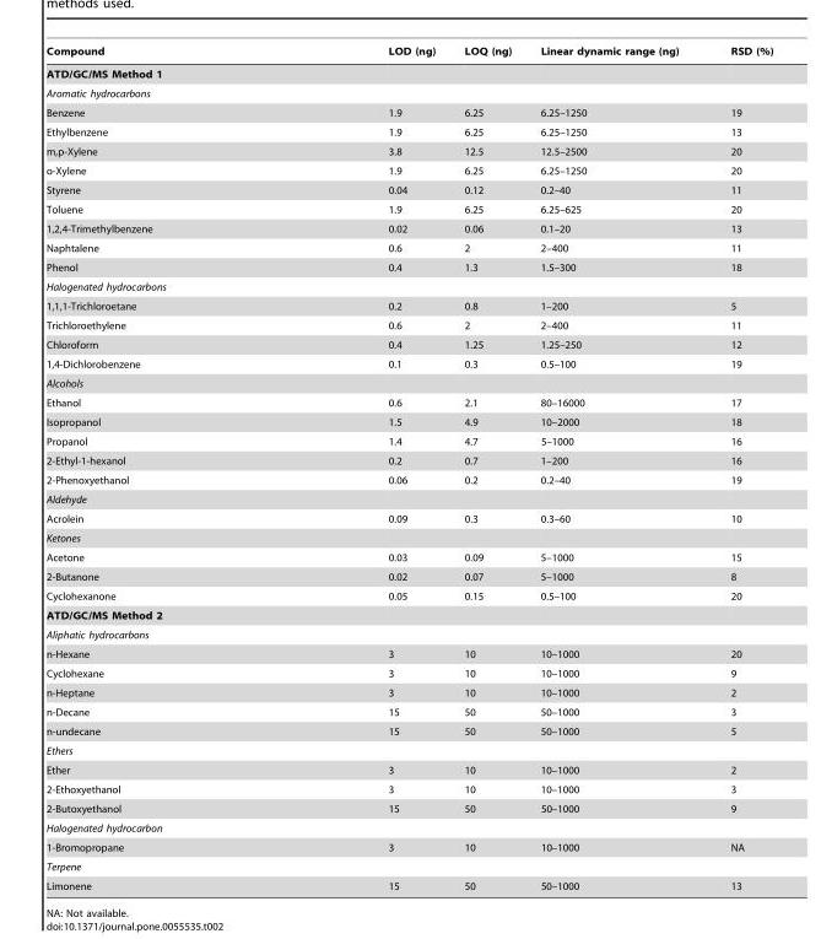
<table><thead><tr><td>Compound</td><td>LOD (ng)</td><td>LOQ (ng)</td><td>Linear dynamic range (ng)</td><td>RSD (%)</td></tr></thead><tbody><tr><td colspan="5">ATD/GC/MS Method 1</td></tr><tr><td colspan="5">Aromatic hydrocarbons</td></tr><tr><td>Benzene</td><td>1.9</td><td>6.25</td><td>6.25–1250</td><td>19</td></tr><tr><td>Ethylbenzene</td><td>1.9</td><td>6.25</td><td>6.25–1250</td><td>13</td></tr><tr><td>m,p-Xylene</td><td>3.8</td><td>12.5</td><td>12.5–2500</td><td>20</td></tr><tr><td>o-Xylene</td><td>1.9</td><td>6.25</td><td>6.25–1250</td><td>20</td></tr><tr><td>Styrene</td><td>0.04</td><td>0.12</td><td>0.2–40</td><td>11</td></tr><tr><td>Toluene</td><td>1.9</td><td>6.25</td><td>6.25–625</td><td>20</td></tr><tr><td>1,2,4-Trimethylbenzene</td><td>0.02</td><td>0.06</td><td>0.1–20</td><td>13</td></tr><tr><td>Naphtalene</td><td>0.6</td><td>2</td><td>2–400</td><td>11</td></tr><tr><td>Phenol</td><td>0.4</td><td>1.3</td><td>1.5–300</td><td>18</td></tr><tr><td colspan="5">Halogenated hydrocarbons</td></tr><tr><td>1,1,1-Trichloroetane</td><td>0.2</td><td>0.8</td><td>1–200</td><td>5</td></tr><tr><td>Trichloroethylene</td><td>0.6</td><td>2</td><td>2–400</td><td>11</td></tr><tr><td>Chloroform</td><td>0.4</td><td>1.25</td><td>1.25–250</td><td>12</td></tr><tr><td>1,4-Dichlorobenzene</td><td>0.1</td><td>0.3</td><td>0.5–100</td><td>19</td></tr><tr><td colspan="5">Alcohols</td></tr><tr><td>Ethanol</td><td>0.6</td><td>2.1</td><td>80–16000</td><td>17</td></tr><tr><td>Isopropanol</td><td>1.5</td><td>4.9</td><td>10–2000</td><td>18</td></tr><tr><td>Propanol</td><td>1.4</td><td>4.7</td><td>5–1000</td><td>16</td></tr><tr><td>2-Ethyl-1-hexanol</td><td>0.2</td><td>0.7</td><td>1–200</td><td>16</td></tr><tr><td>2-Phenoxyethanol</td><td>0.06</td><td>0.2</td><td>0.2–40</td><td>19</td></tr><tr><td colspan="5">Aldehyde</td></tr><tr><td>Acrolein</td><td>0.09</td><td>0.3</td><td>0.3–60</td><td>10</td></tr><tr><td colspan="5">Ketones</td></tr><tr><td>Acetone</td><td>0.03</td><td>0.09</td><td>5–1000</td><td>15</td></tr><tr><td>2-Butanone</td><td>0.02</td><td>0.07</td><td>5–1000</td><td>8</td></tr><tr><td>Cyclohexanone</td><td>0.05</td><td>0.15</td><td>0.5–100</td><td>20</td></tr><tr><td colspan="5">ATD/GC/MS Method 2</td></tr><tr><td colspan="5">Aliphatic hydrocarbons</td></tr><tr><td>n-Hexane</td><td>3</td><td>10</td><td>10–1000</td><td>20</td></tr><tr><td>Cyclohexane</td><td>3</td><td>10</td><td>10–1000</td><td>9</td></tr><tr><td>n-Heptane</td><td>3</td><td>10</td><td>10–1000</td><td>2</td></tr><tr><td>n-Decane</td><td>15</td><td>50</td><td>50–1000</td><td>3</td></tr><tr><td>n-undecane</td><td>15</td><td>50</td><td>50–1000</td><td>5</td></tr><tr><td colspan="5">Ethers</td></tr><tr><td>Ether</td><td>3</td><td>10</td><td>10–1000</td><td>2</td></tr><tr><td>2-Ethoxyethanol</td><td>3</td><td>10</td><td>10–1000</td><td>3</td></tr><tr><td>2-Butoxyethanol</td><td>15</td><td>50</td><td>50–1000</td><td>9</td></tr><tr><td colspan="5">Halogenated hydrocarbon</td></tr><tr><td>1-Bromopropane</td><td>3</td><td>10</td><td>10–1000</td><td>NA</td></tr><tr><td colspan="5">Terpene</td></tr><tr><td>Limonene</td><td>15</td><td>50</td><td>50–1000</td><td>13</td></tr></tbody></table>